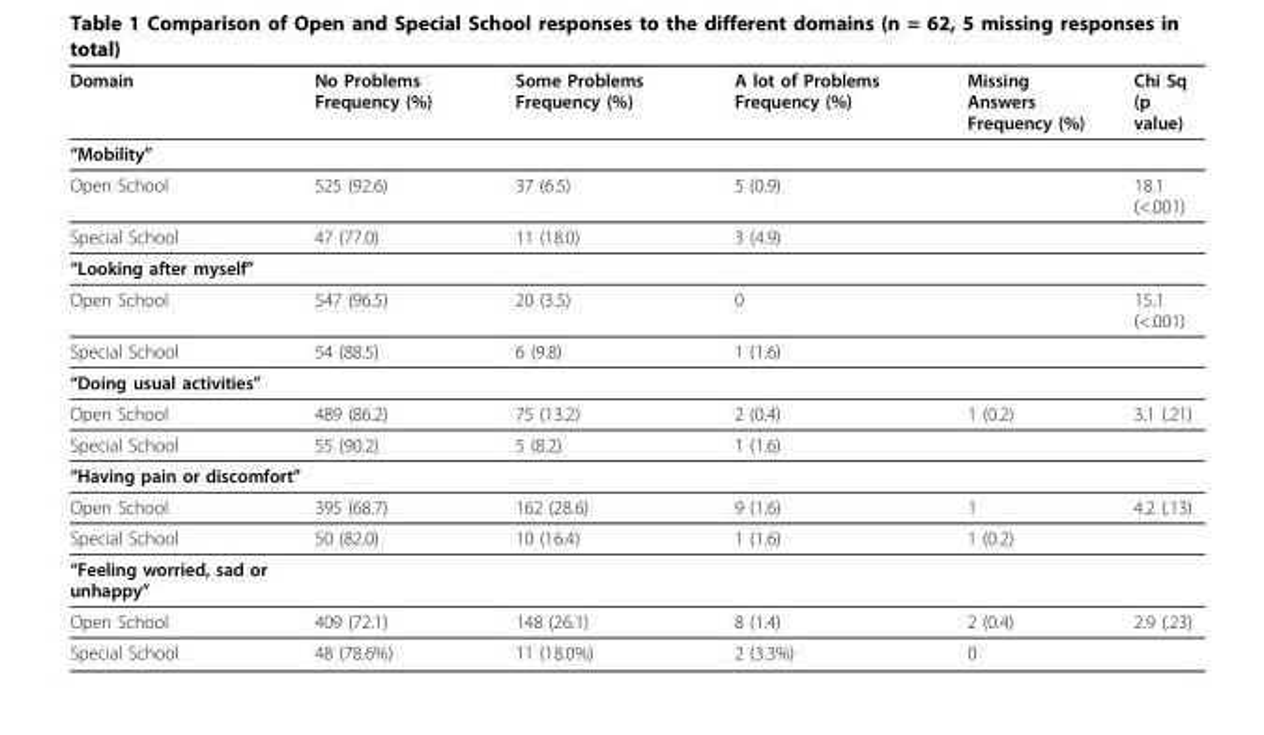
<table><thead><tr><td>Domain</td><td>No Problems Frequency (%)</td><td>Some Problems Frequency (%)</td><td>A lot of Problems Frequency (%)</td><td>Missing Answers Frequency (%)</td><td>Chi Sq (p value)</td></tr></thead><tbody><tr><td colspan="6">“Mobility”</td></tr><tr><td>Open School</td><td>525 (92.6)</td><td>37 (6.5)</td><td>5 (0.9)</td><td></td><td>18.1 (&lt;.001)</td></tr><tr><td>Special School</td><td>47 (77.0)</td><td>11 (18.0)</td><td>3 (4.9)</td><td></td><td></td></tr><tr><td colspan="6">“Looking after myself”</td></tr><tr><td>Open School</td><td>547 (96.5)</td><td>20 (3.5)</td><td>0</td><td></td><td>15.1 (&lt;.001)</td></tr><tr><td>Special School</td><td>54 (88.5)</td><td>6 (9.8)</td><td>1 (1.6)</td><td></td><td></td></tr><tr><td colspan="6">“Doing usual activities”</td></tr><tr><td>Open School</td><td>489 (86.2)</td><td>75 (13.2)</td><td>2 (0.4)</td><td>1 (0.2)</td><td>3.1 (.21)</td></tr><tr><td>Special School</td><td>55 (90.2)</td><td>5 (8.2)</td><td>1 (1.6)</td><td></td><td></td></tr><tr><td colspan="6">“Having pain or discomfort”</td></tr><tr><td>Open School</td><td>395 (68.7)</td><td>162 (28.6)</td><td>9 (1.6)</td><td>1</td><td>4.2 (.13)</td></tr><tr><td>Special School</td><td>50 (82.0)</td><td>10 (16.4)</td><td>1 (1.6)</td><td>1 (0.2)</td><td></td></tr><tr><td colspan="6">“Feeling worried, sad or unhappy”</td></tr><tr><td>Open School</td><td>409 (72.1)</td><td>148 (26.1)</td><td>8 (1.4)</td><td>2 (0.4)</td><td>2.9 (.23)</td></tr><tr><td>Special School</td><td>48 (78.6%)</td><td>11 (18.0%)</td><td>2 (3.3%)</td><td>0</td><td></td></tr></tbody></table>